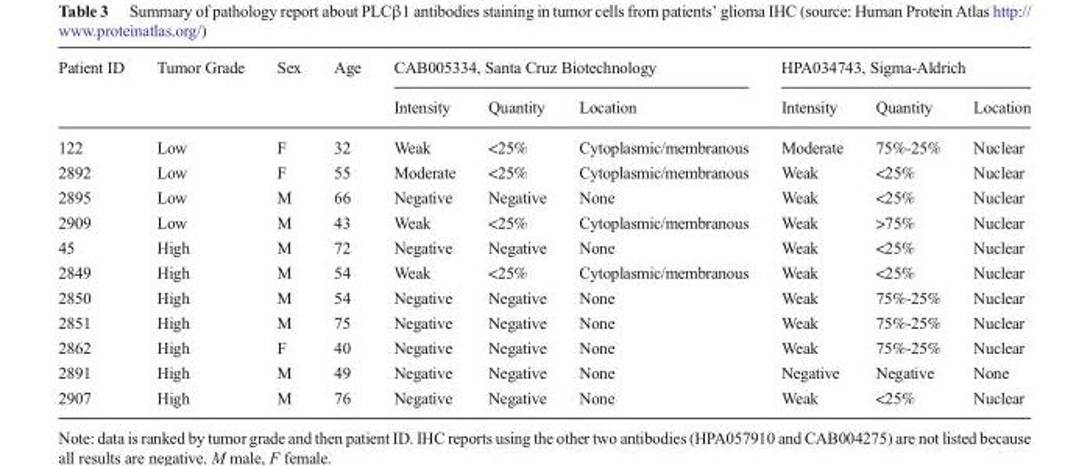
<table><thead><tr><td rowspan="2">Patient ID</td><td rowspan="2">Tumor Grade</td><td rowspan="2">Sex</td><td rowspan="2">Age</td><td colspan="3">CAB005334, Santa Cruz Biotechnology</td><td colspan="3">HPA034743, Sigma-Aldrich</td></tr><tr><td>Intensity</td><td>Quantity</td><td>Location</td><td>Intensity</td><td>Quantity</td><td>Location</td></tr></thead><tbody><tr><td>122</td><td>Low</td><td>F</td><td>32</td><td>Weak</td><td>&lt;25%</td><td>Cytoplasmic/membranous</td><td>Moderate</td><td>75%-25%</td><td>Nuclear</td></tr><tr><td>2892</td><td>Low</td><td>F</td><td>55</td><td>Moderate</td><td>&lt;25%</td><td>Cytoplasmic/membranous</td><td>Weak</td><td>&lt;25%</td><td>Nuclear</td></tr><tr><td>2895</td><td>Low</td><td>M</td><td>66</td><td>Negative</td><td>Negative</td><td>None</td><td>Weak</td><td>&lt;25%</td><td>Nuclear</td></tr><tr><td>2909</td><td>Low</td><td>M</td><td>43</td><td>Weak</td><td>&lt;25%</td><td>Cytoplasmic/membranous</td><td>Weak</td><td>&gt;75%</td><td>Nuclear</td></tr><tr><td>45</td><td>High</td><td>M</td><td>72</td><td>Negative</td><td>Negative</td><td>None</td><td>Weak</td><td>&lt;25%</td><td>Nuclear</td></tr><tr><td>2849</td><td>High</td><td>M</td><td>54</td><td>Weak</td><td>&lt;25%</td><td>Cytoplasmic/membranous</td><td>Weak</td><td>&lt;25%</td><td>Nuclear</td></tr><tr><td>2850</td><td>High</td><td>M</td><td>54</td><td>Negative</td><td>Negative</td><td>None</td><td>Weak</td><td>75%-25%</td><td>Nuclear</td></tr><tr><td>2851</td><td>High</td><td>M</td><td>75</td><td>Negative</td><td>Negative</td><td>None</td><td>Weak</td><td>75%-25%</td><td>Nuclear</td></tr><tr><td>2862</td><td>High</td><td>F</td><td>40</td><td>Negative</td><td>Negative</td><td>None</td><td>Weak</td><td>75%-25%</td><td>Nuclear</td></tr><tr><td>2891</td><td>High</td><td>M</td><td>49</td><td>Negative</td><td>Negative</td><td>None</td><td>Negative</td><td>Negative</td><td>None</td></tr><tr><td>2907</td><td>High</td><td>M</td><td>76</td><td>Negative</td><td>Negative</td><td>None</td><td>Weak</td><td>&lt;25%</td><td>Nuclear</td></tr></tbody></table>